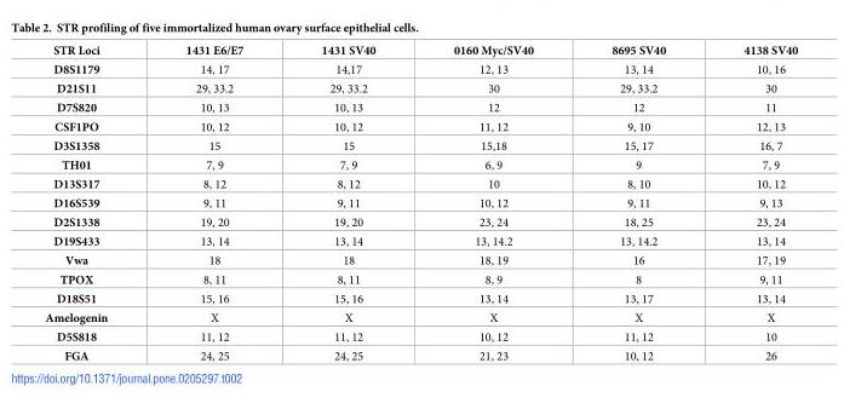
<table><thead><tr><td>STR Loci</td><td>1431 E6/E7</td><td>1431 SV40</td><td>0160 Myc/SV40</td><td>8695 SV40</td><td>4138 SV40</td></tr></thead><tbody><tr><td>D8S1179</td><td>14, 17</td><td>14,17</td><td>12, 13</td><td>13, 14</td><td>10, 16</td></tr><tr><td>D21S11</td><td>29, 33.2</td><td>29, 33.2</td><td>30</td><td>29, 33.2</td><td>30</td></tr><tr><td>D7S820</td><td>10, 13</td><td>10, 13</td><td>12</td><td>12</td><td>11</td></tr><tr><td>CSF1PO</td><td>10, 12</td><td>10, 12</td><td>11, 12</td><td>9, 10</td><td>12, 13</td></tr><tr><td>D3S1358</td><td>15</td><td>15</td><td>15,18</td><td>15, 17</td><td>16, 7</td></tr><tr><td>TH01</td><td>7, 9</td><td>7, 9</td><td>6, 9</td><td>9</td><td>7, 9</td></tr><tr><td>D13S317</td><td>8, 12</td><td>8, 12</td><td>10</td><td>8, 10</td><td>10, 12</td></tr><tr><td>D16S539</td><td>9, 11</td><td>9, 11</td><td>10, 12</td><td>9, 11</td><td>9, 13</td></tr><tr><td>D2S1338</td><td>19, 20</td><td>19, 20</td><td>23, 24</td><td>18, 25</td><td>23, 24</td></tr><tr><td>D19S433</td><td>13, 14</td><td>13, 14</td><td>13, 14.2</td><td>13, 14.2</td><td>13, 14</td></tr><tr><td>Vwa</td><td>18</td><td>18</td><td>18, 19</td><td>16</td><td>17, 19</td></tr><tr><td>TPOX</td><td>8, 11</td><td>8, 11</td><td>8, 9</td><td>8</td><td>9, 11</td></tr><tr><td>D18S51</td><td>15, 16</td><td>15, 16</td><td>13, 14</td><td>13, 17</td><td>13, 14</td></tr><tr><td>Amelogenin</td><td>X</td><td>X</td><td>X</td><td>X</td><td>X</td></tr><tr><td>D5S818</td><td>11, 12</td><td>11, 12</td><td>10, 12</td><td>11, 12</td><td>10</td></tr><tr><td>FGA</td><td>24, 25</td><td>24, 25</td><td>21, 23</td><td>10, 12</td><td>26</td></tr></tbody></table>